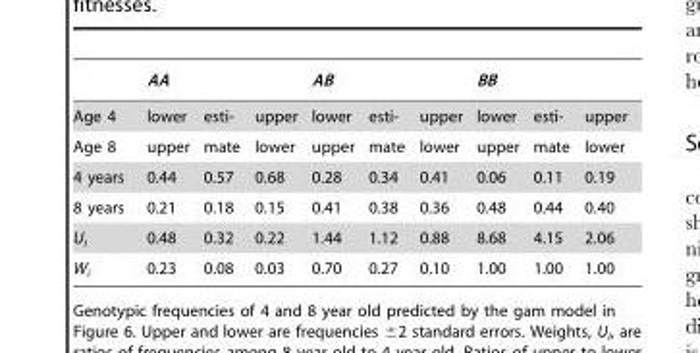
<table><thead><tr><td rowspan="2">Age 4</td><td colspan="3">AA</td><td colspan="3">AB</td><td colspan="3">BB</td></tr><tr><td>lower</td><td>esti-</td><td>upper</td><td>lower</td><td>esti-</td><td>upper</td><td>lower</td><td>esti-</td><td>upper</td></tr></thead><tbody><tr><td>Age 8</td><td>upper</td><td>mate</td><td>lower</td><td>upper</td><td>mate</td><td>lower</td><td>upper</td><td>mate</td><td>lower</td></tr><tr><td>4 years</td><td>0.44</td><td>0.57</td><td>0.68</td><td>0.28</td><td>0.34</td><td>0.41</td><td>0.06</td><td>0.11</td><td>0.19</td></tr><tr><td>8 years</td><td>0.21</td><td>0.18</td><td>0.15</td><td>0.41</td><td>0.38</td><td>0.36</td><td>0.48</td><td>0.44</td><td>0.40</td></tr><tr><td>U<sub>i</sub></td><td>0.48</td><td>0.32</td><td>0.22</td><td>1.44</td><td>1.12</td><td>0.88</td><td>8.68</td><td>4.15</td><td>2.06</td></tr><tr><td>W<sub>i</sub></td><td>0.23</td><td>0.08</td><td>0.03</td><td>0.70</td><td>0.27</td><td>0.10</td><td>1.00</td><td>1.00</td><td>1.00</td></tr></tbody></table>